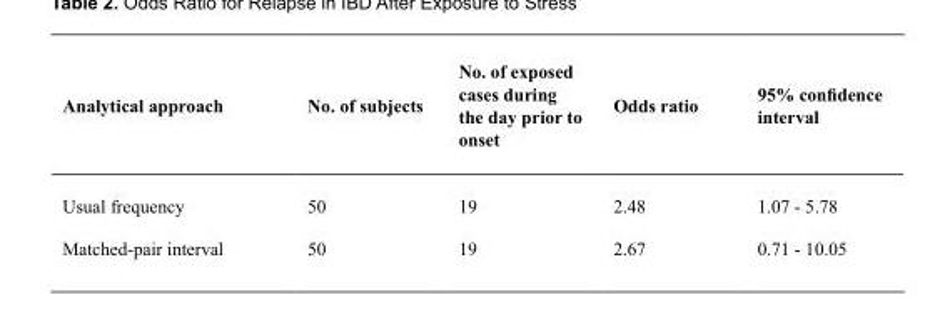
<table><thead><tr><td>Analytical approach</td><td>No. of subjects</td><td>No. of exposed cases during the day prior to onset</td><td>Odds ratio</td><td>95% confidence interval</td></tr></thead><tbody><tr><td>Usual frequency</td><td>50</td><td>19</td><td>2.48</td><td>1.07 - 5.78</td></tr><tr><td>Matched-pair interval</td><td>50</td><td>19</td><td>2.67</td><td>0.71 - 10.05</td></tr></tbody></table>